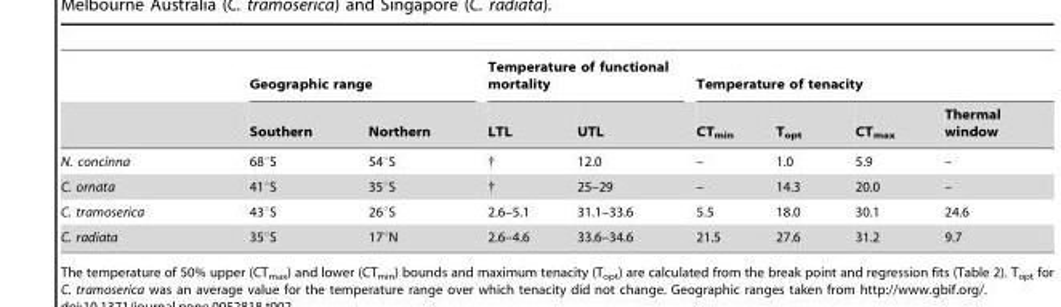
<table><thead><tr><td rowspan="2"></td><td colspan="2">Geographic range</td><td colspan="2">Temperature of functional mortality</td><td colspan="4">Temperature of tenacity</td></tr><tr><td>Southern</td><td>Northern</td><td>LTL</td><td>UTL</td><td>CT<sub>min</sub></td><td>T<sub>opt</sub></td><td>CT<sub>max</sub></td><td>Thermal window</td></tr></thead><tbody><tr><td>N. concinna</td><td>68°S</td><td>54°S</td><td>†</td><td>12.0</td><td>–</td><td>1.0</td><td>5.9</td><td>–</td></tr><tr><td>C. ornata</td><td>41°S</td><td>35°S</td><td>†</td><td>25–29</td><td>–</td><td>14.3</td><td>20.0</td><td>–</td></tr><tr><td>C. tramoserica</td><td>43°S</td><td>26°S</td><td>2.6–5.1</td><td>31.1–33.6</td><td>5.5</td><td>18.0</td><td>30.1</td><td>24.6</td></tr><tr><td>C. radiata</td><td>35°S</td><td>17°N</td><td>2.6–4.6</td><td>33.6–34.6</td><td>21.5</td><td>27.6</td><td>31.2</td><td>9.7</td></tr></tbody></table>